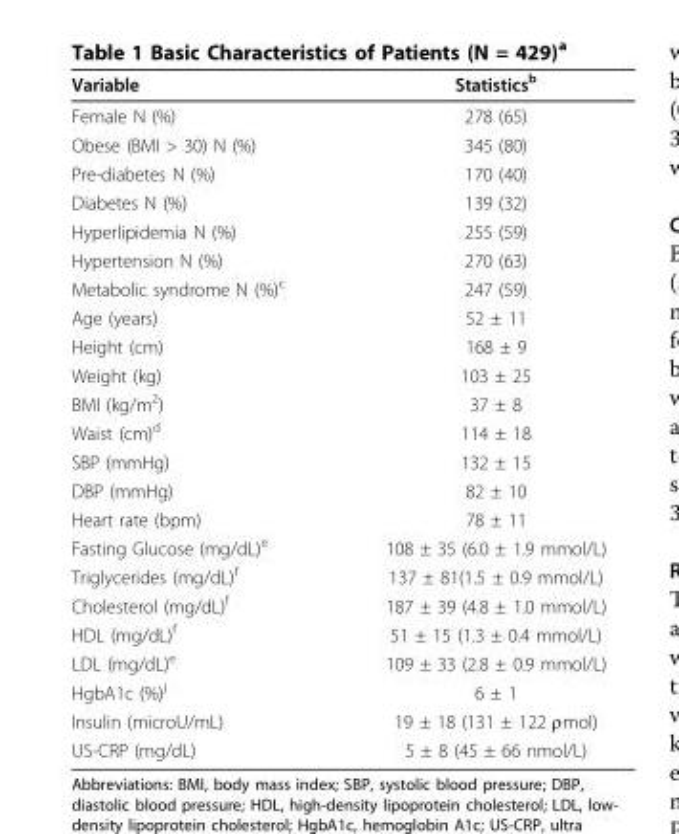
<table><thead><tr><td>Variable</td><td>Statistics<sup>b</sup></td></tr></thead><tbody><tr><td>Female N (%)</td><td>278 (65)</td></tr><tr><td>Obese (BMI &gt; 30) N (%)</td><td>345 (80)</td></tr><tr><td>Pre-diabetes N (%)</td><td>170 (40)</td></tr><tr><td>Diabetes N (%)</td><td>139 (32)</td></tr><tr><td>Hyperlipidemia N (%)</td><td>255 (59)</td></tr><tr><td>Hypertension N (%)</td><td>270 (63)</td></tr><tr><td>Metabolic syndrome N (%)<sup>c</sup></td><td>247 (59)</td></tr><tr><td>Age (years)</td><td>52 ± 11</td></tr><tr><td>Height (cm)</td><td>168 ± 9</td></tr><tr><td>Weight (kg)</td><td>103 ± 25</td></tr><tr><td>BMI (kg/m<sup>2</sup>)</td><td>37 ± 8</td></tr><tr><td>Waist (cm)<sup>d</sup></td><td>114 ± 18</td></tr><tr><td>SBP (mmHg)</td><td>132 ± 15</td></tr><tr><td>DBP (mmHg)</td><td>82 ± 10</td></tr><tr><td>Heart rate (bpm)</td><td>78 ± 11</td></tr><tr><td>Fasting Glucose (mg/dL)<sup>e</sup></td><td>108 ± 35 (6.0 ± 1.9 mmol/L)</td></tr><tr><td>Triglycerides (mg/dL)<sup>f</sup></td><td>137 ± 81(1.5 ± 0.9 mmol/L)</td></tr><tr><td>Cholesterol (mg/dL)<sup>f</sup></td><td>187 ± 39 (4.8 ± 1.0 mmol/L)</td></tr><tr><td>HDL (mg/dL)<sup>f</sup></td><td>51 ± 15 (1.3 ± 0.4 mmol/L)</td></tr><tr><td>LDL (mg/dL)<sup>e</sup></td><td>109 ± 33 (2.8 ± 0.9 mmol/L)</td></tr><tr><td>HgbA1c (%)<sup>j</sup></td><td>6 ± 1</td></tr><tr><td>Insulin (microU/mL)</td><td>19 ± 18 (131 ± 122 ρmol)</td></tr><tr><td>US-CRP (mg/dL)</td><td>5 ± 8 (45 ± 66 nmol/L)</td></tr></tbody></table>